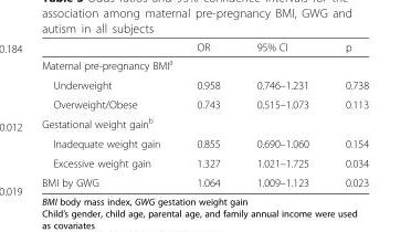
<table><thead><tr><td></td><td>OR</td><td>95% CI</td><td>p</td></tr></thead><tbody><tr><td colspan="4">Maternal pre-pregnancy BMI<sup>a</sup></td></tr><tr><td>Underweight</td><td>0.958</td><td>0.746–1.231</td><td>0.738</td></tr><tr><td>Overweight/Obese</td><td>0.743</td><td>0.515–1.073</td><td>0.113</td></tr><tr><td colspan="4">Gestational weight gain<sup>b</sup></td></tr><tr><td>Inadequate weight gain</td><td>0.855</td><td>0.690–1.060</td><td>0.154</td></tr><tr><td>Excessive weight gain</td><td>1.327</td><td>1.021–1.725</td><td>0.034</td></tr><tr><td>BMI by GWG</td><td>1.064</td><td>1.009–1.123</td><td>0.023</td></tr></tbody></table>